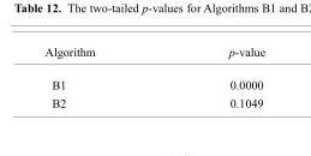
<table><thead><tr><td>Algorithm</td><td>p-value</td></tr></thead><tbody><tr><td>B1</td><td>0.0000</td></tr><tr><td>B2</td><td>0.1049</td></tr></tbody></table>